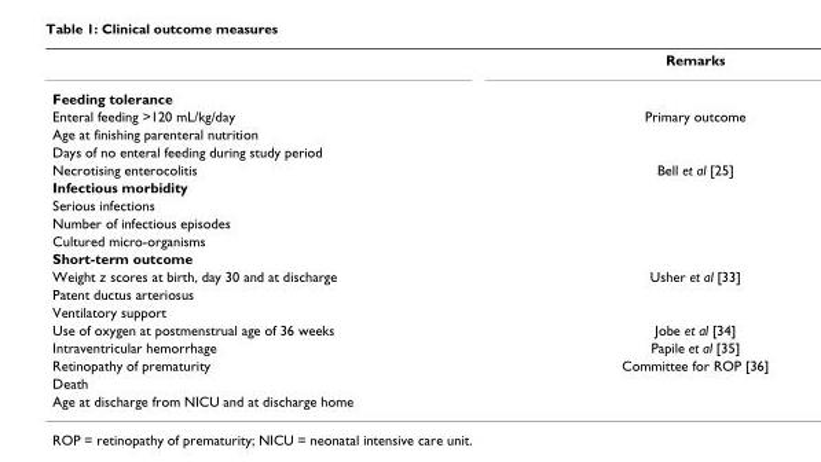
<table><thead><tr><td></td><td>Remarks</td></tr></thead><tbody><tr><td colspan="2">Feeding tolerance</td></tr><tr><td>Enteral feeding &gt;120 mL/kg/day</td><td>Primary outcome</td></tr><tr><td colspan="2">Age at finishing parenteral nutrition</td></tr><tr><td colspan="2">Days of no enteral feeding during study period</td></tr><tr><td>Necrotising enterocolitis</td><td>Bell et al [25]</td></tr><tr><td colspan="2">Infectious morbidity</td></tr><tr><td colspan="2">Serious infections</td></tr><tr><td colspan="2">Number of infectious episodes</td></tr><tr><td colspan="2">Cultured micro-organisms</td></tr><tr><td colspan="2">Short-term outcome</td></tr><tr><td>Weight z scores at birth, day 30 and at discharge</td><td>Usher et al [33]</td></tr><tr><td colspan="2">Patent ductus arteriosus</td></tr><tr><td colspan="2">Ventilatory support</td></tr><tr><td>Use of oxygen at postmenstrual age of 36 weeks</td><td>Jobe et al [34]</td></tr><tr><td>Intraventricular hemorrhage</td><td>Papile et al [35]</td></tr><tr><td>Retinopathy of prematurity</td><td>Committee for ROP [36]</td></tr><tr><td colspan="2">Death</td></tr><tr><td>Age at discharge from NICU and at discharge home</td><td></td></tr></tbody></table>